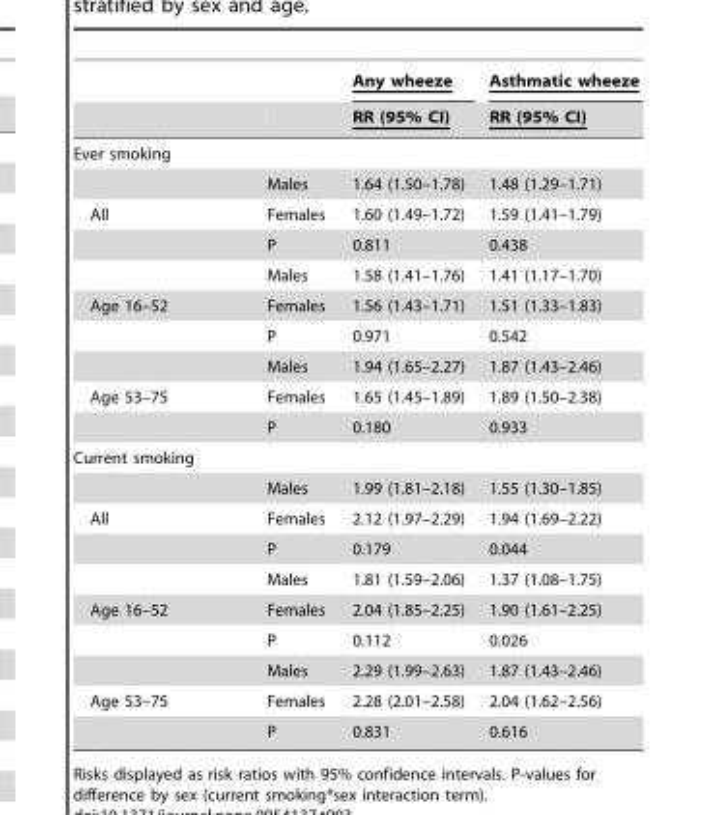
<table><thead><tr><td rowspan="2"></td><td rowspan="2"></td><td rowspan="2">Any wheeze RR (95% CI)</td><td rowspan="2">Asthmatic wheeze RR (95% CI)</td></tr><tr></tr></thead><tbody><tr><td colspan="4">Ever smoking</td></tr><tr><td></td><td>Males</td><td>1.64 (1.50–1.78)</td><td>1.48 (1.29–1.71)</td></tr><tr><td rowspan="3">All</td><td>Females</td><td>1.60 (1.49–1.72)</td><td>1.59 (1.41–1.79)</td></tr><tr><td>P</td><td>0.811</td><td>0.438</td></tr><tr><td>Males</td><td>1.58 (1.41–1.76)</td><td>1.41 (1.17–1.70)</td></tr><tr><td rowspan="3">Age 16–52</td><td>Females</td><td>1.56 (1.43–1.71)</td><td>1.51 (1.33–1.83)</td></tr><tr><td>P</td><td>0.971</td><td>0.542</td></tr><tr><td>Males</td><td>1.94 (1.65–2.27)</td><td>1.87 (1.43–2.46)</td></tr><tr><td rowspan="2">Age 53–75</td><td>Females</td><td>1.65 (1.45–1.89)</td><td>1.89 (1.50–2.38)</td></tr><tr><td>P</td><td>0.180</td><td>0.933</td></tr><tr><td colspan="4">Current smoking</td></tr><tr><td></td><td>Males</td><td>1.99 (1.81–2.18)</td><td>1.55 (1.30–1.85)</td></tr><tr><td rowspan="3">All</td><td>Females</td><td>2.12 (1.97–2.29)</td><td>1.94 (1.69–2.22)</td></tr><tr><td>P</td><td>0.179</td><td>0.044</td></tr><tr><td>Males</td><td>1.81 (1.59–2.06)</td><td>1.37 (1.08–1.75)</td></tr><tr><td rowspan="3">Age 16–52</td><td>Females</td><td>2.04 (1.85–2.25)</td><td>1.90 (1.61–2.25)</td></tr><tr><td>P</td><td>0.112</td><td>0.026</td></tr><tr><td>Males</td><td>2.29 (1.99–2.63)</td><td>1.87 (1.43–2.46)</td></tr><tr><td rowspan="2">Age 53–75</td><td>Females</td><td>2.28 (2.01–2.58)</td><td>2.04 (1.62–2.56)</td></tr><tr><td>P</td><td>0.831</td><td>0.616</td></tr></tbody></table>